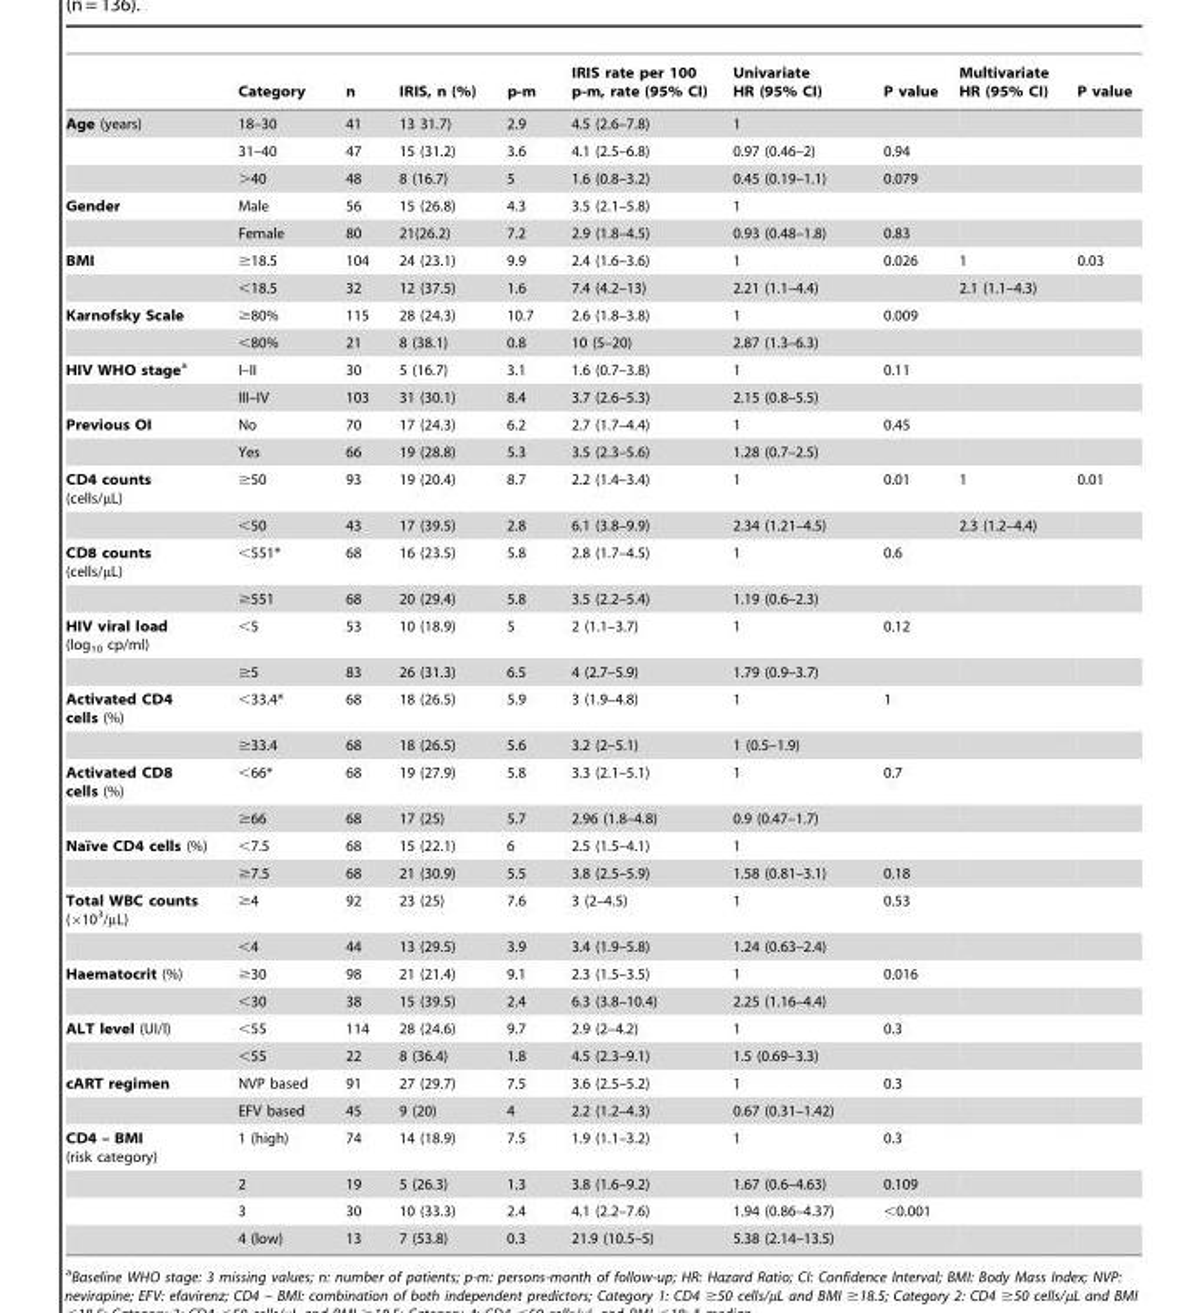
<table><thead><tr><td></td><td>Category</td><td>n</td><td>IRIS, n (%)</td><td>p-m</td><td>IRIS rate per 100 p-m, rate (95% CI)</td><td>Univariate HR (95% CI)</td><td>P value</td><td>Multivariate HR (95% CI)</td><td>P value</td></tr></thead><tbody><tr><td rowspan="3">Age (years)</td><td>18–30</td><td>41</td><td>13 31.7)</td><td>2.9</td><td>4.5 (2.6–7.8)</td><td>1</td><td></td><td></td><td></td></tr><tr><td>31–40</td><td>47</td><td>15 (31.2)</td><td>3.6</td><td>4.1 (2.5–6.8)</td><td>0.97 (0.46–2)</td><td>0.94</td><td></td><td></td></tr><tr><td>&gt;40</td><td>48</td><td>8 (16.7)</td><td>5</td><td>1.6 (0.8–3.2)</td><td>0.45 (0.19–1.1)</td><td>0.079</td><td></td><td></td></tr><tr><td rowspan="2">Gender</td><td>Male</td><td>56</td><td>15 (26.8)</td><td>4.3</td><td>3.5 (2.1–5.8)</td><td>1</td><td></td><td></td><td></td></tr><tr><td>Female</td><td>80</td><td>21(26.2)</td><td>7.2</td><td>2.9 (1.8–4.5)</td><td>0.93 (0.48–1.8)</td><td>0.83</td><td></td><td></td></tr><tr><td rowspan="2">BMI</td><td>≥18.5</td><td>104</td><td>24 (23.1)</td><td>9.9</td><td>2.4 (1.6–3.6)</td><td>1</td><td>0.026</td><td>1</td><td>0.03</td></tr><tr><td>&lt;18.5</td><td>32</td><td>12 (37.5)</td><td>1.6</td><td>7.4 (4.2–13)</td><td>2.21 (1.1–4.4)</td><td></td><td>2.1 (1.1–4.3)</td><td></td></tr><tr><td rowspan="2">Karnofsky Scale</td><td>≥80%</td><td>115</td><td>28 (24.3)</td><td>10.7</td><td>2.6 (1.8–3.8)</td><td>1</td><td>0.009</td><td></td><td></td></tr><tr><td>&lt;80%</td><td>21</td><td>8 (38.1)</td><td>0.8</td><td>10 (5–20)</td><td>2.87 (1.3–6.3)</td><td></td><td></td><td></td></tr><tr><td rowspan="2">HIV WHO stagea</td><td>I–II</td><td>30</td><td>5 (16.7)</td><td>3.1</td><td>1.6 (0.7–3.8)</td><td>1</td><td>0.11</td><td></td><td></td></tr><tr><td>III–IV</td><td>103</td><td>31 (30.1)</td><td>8.4</td><td>3.7 (2.6–5.3)</td><td>2.15 (0.8–5.5)</td><td></td><td></td><td></td></tr><tr><td rowspan="2">Previous OI</td><td>No</td><td>70</td><td>17 (24.3)</td><td>6.2</td><td>2.7 (1.7–4.4)</td><td>1</td><td>0.45</td><td></td><td></td></tr><tr><td>Yes</td><td>66</td><td>19 (28.8)</td><td>5.3</td><td>3.5 (2.3–5.6)</td><td>1.28 (0.7–2.5)</td><td></td><td></td><td></td></tr><tr><td rowspan="2">CD4 counts (cells/µL)</td><td>≥50</td><td>93</td><td>19 (20.4)</td><td>8.7</td><td>2.2 (1.4–3.4)</td><td>1</td><td>0.01</td><td>1</td><td>0.01</td></tr><tr><td>&lt;50</td><td>43</td><td>17 (39.5)</td><td>2.8</td><td>6.1 (3.8–9.9)</td><td>2.34 (1.21–4.5)</td><td></td><td>2.3 (1.2–4.4)</td><td></td></tr><tr><td rowspan="2">CD8 counts (cells/µL)</td><td>&lt;551*</td><td>68</td><td>16 (23.5)</td><td>5.8</td><td>2.8 (1.7–4.5)</td><td>1</td><td>0.6</td><td></td><td></td></tr><tr><td>≥551</td><td>68</td><td>20 (29.4)</td><td>5.8</td><td>3.5 (2.2–5.4)</td><td>1.19 (0.6–2.3)</td><td></td><td></td><td></td></tr><tr><td rowspan="2">HIV viral load (log<sub>10</sub> cp/ml)</td><td>&lt;5</td><td>53</td><td>10 (18.9)</td><td>5</td><td>2 (1.1–3.7)</td><td>1</td><td>0.12</td><td></td><td></td></tr><tr><td>≥5</td><td>83</td><td>26 (31.3)</td><td>6.5</td><td>4 (2.7–5.9)</td><td>1.79 (0.9–3.7)</td><td></td><td></td><td></td></tr><tr><td rowspan="2">Activated CD4 cells (%)</td><td>&lt;33.4*</td><td>68</td><td>18 (26.5)</td><td>5.9</td><td>3 (1.9–4.8)</td><td>1</td><td>1</td><td></td><td></td></tr><tr><td>≥33.4</td><td>68</td><td>18 (26.5)</td><td>5.6</td><td>3.2 (2–5.1)</td><td>1 (0.5–1.9)</td><td></td><td></td><td></td></tr><tr><td rowspan="2">Activated CD8 cells (%)</td><td>&lt;66*</td><td>68</td><td>19 (27.9)</td><td>5.8</td><td>3.3 (2.1–5.1)</td><td>1</td><td>0.7</td><td></td><td></td></tr><tr><td>≥66</td><td>68</td><td>17 (25)</td><td>5.7</td><td>2.96 (1.8–4.8)</td><td>0.9 (0.47–1.7)</td><td></td><td></td><td></td></tr><tr><td rowspan="2">Naı¨ve CD4 cells (%)</td><td>&lt;7.5</td><td>68</td><td>15 (22.1)</td><td>6</td><td>2.5 (1.5–4.1)</td><td>1</td><td></td><td></td><td></td></tr><tr><td>≥7.5</td><td>68</td><td>21 (30.9)</td><td>5.5</td><td>3.8 (2.5–5.9)</td><td>1.58 (0.81–3.1)</td><td>0.18</td><td></td><td></td></tr><tr><td rowspan="2">Total WBC counts (×10<sup>3</sup>/µL)</td><td>≥4</td><td>92</td><td>23 (25)</td><td>7.6</td><td>3 (2–4.5)</td><td>1</td><td>0.53</td><td></td><td></td></tr><tr><td>&lt;4</td><td>44</td><td>13 (29.5)</td><td>3.9</td><td>3.4 (1.9–5.8)</td><td>1.24 (0.63–2.4)</td><td></td><td></td><td></td></tr><tr><td rowspan="2">Haematocrit (%)</td><td>≥30</td><td>98</td><td>21 (21.4)</td><td>9.1</td><td>2.3 (1.5–3.5)</td><td>1</td><td>0.016</td><td></td><td></td></tr><tr><td>&lt;30</td><td>38</td><td>15 (39.5)</td><td>2.4</td><td>6.3 (3.8–10.4)</td><td>2.25 (1.16–4.4)</td><td></td><td></td><td></td></tr><tr><td rowspan="2">ALT level (UI/l)</td><td>&lt;55</td><td>114</td><td>28 (24.6)</td><td>9.7</td><td>2.9 (2–4.2)</td><td>1</td><td>0.3</td><td></td><td></td></tr><tr><td>&lt;55</td><td>22</td><td>8 (36.4)</td><td>1.8</td><td>4.5 (2.3–9.1)</td><td>1.5 (0.69–3.3)</td><td></td><td></td><td></td></tr><tr><td rowspan="2">cART regimen</td><td>NVP based</td><td>91</td><td>27 (29.7)</td><td>7.5</td><td>3.6 (2.5–5.2)</td><td>1</td><td>0.3</td><td></td><td></td></tr><tr><td>EFV based</td><td>45</td><td>9 (20)</td><td>4</td><td>2.2 (1.2–4.3)</td><td>0.67 (0.31–1.42)</td><td></td><td></td><td></td></tr><tr><td rowspan="4">CD4 – BMI (risk category)</td><td>1 (high)</td><td>74</td><td>14 (18.9)</td><td>7.5</td><td>1.9 (1.1–3.2)</td><td>1</td><td>0.3</td><td></td><td></td></tr><tr><td>2</td><td>19</td><td>5 (26.3)</td><td>1.3</td><td>3.8 (1.6–9.2)</td><td>1.67 (0.6–4.63)</td><td>0.109</td><td></td><td></td></tr><tr><td>3</td><td>30</td><td>10 (33.3)</td><td>2.4</td><td>4.1 (2.2–7.6)</td><td>1.94 (0.86–4.37)</td><td>&lt;0.001</td><td></td><td></td></tr><tr><td>4 (low)</td><td>13</td><td>7 (53.8)</td><td>0.3</td><td>21.9 (10.5–5)</td><td>5.38 (2.14–13.5)</td><td></td><td></td><td></td></tr></tbody></table>